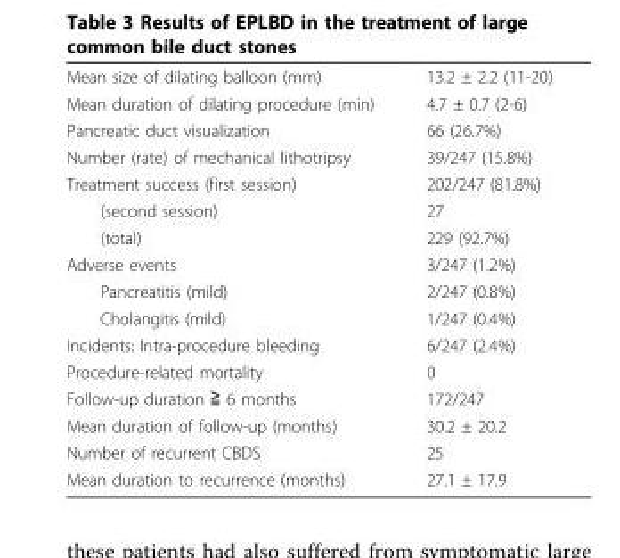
<table><tbody><tr><td>Mean size of dilating balloon (mm)</td><td>13.2 ± 2.2 (11-20)</td></tr><tr><td>Mean duration of dilating procedure (min)</td><td>4.7 ± 0.7 (2-6)</td></tr><tr><td>Pancreatic duct visualization</td><td>66 (26.7%)</td></tr><tr><td>Number (rate) of mechanical lithotripsy</td><td>39/247 (15.8%)</td></tr><tr><td>Treatment success (first session)</td><td>202/247 (81.8%)</td></tr><tr><td>(second session)</td><td>27</td></tr><tr><td>(total)</td><td>229 (92.7%)</td></tr><tr><td>Adverse events</td><td>3/247 (1.2%)</td></tr><tr><td>Pancreatitis (mild)</td><td>2/247 (0.8%)</td></tr><tr><td>Cholangitis (mild)</td><td>1/247 (0.4%)</td></tr><tr><td>Incidents: Intra-procedure bleeding</td><td>6/247 (2.4%)</td></tr><tr><td>Procedure-related mortality</td><td>0</td></tr><tr><td>Follow-up duration ≧ 6 months</td><td>172/247</td></tr><tr><td>Mean duration of follow-up (months)</td><td>30.2 ± 20.2</td></tr><tr><td>Number of recurrent CBDS</td><td>25</td></tr><tr><td>Mean duration to recurrence (months)</td><td>27.1 ± 17.9</td></tr></tbody></table>